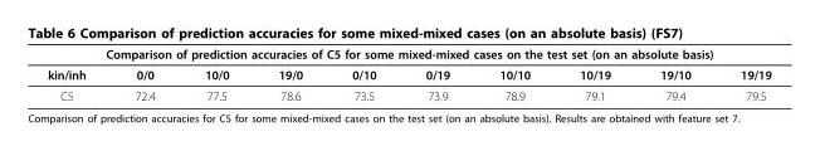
<table><thead><tr><td colspan="10">Comparison of prediction accuracies of C5 for some mixed-mixed cases on the test set (on an absolute basis)</td></tr><tr><td>kin/inh</td><td>0/0</td><td>10/0</td><td>19/0</td><td>0/10</td><td>0/19</td><td>10/10</td><td>10/19</td><td>19/10</td><td>19/19</td></tr></thead><tbody><tr><td>C5</td><td>72.4</td><td>77.5</td><td>78.6</td><td>73.5</td><td>73.9</td><td>78.9</td><td>79.1</td><td>79.4</td><td>79.5</td></tr></tbody></table>